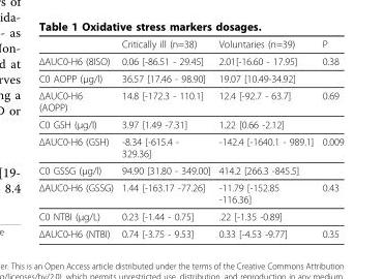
<table><thead><tr><td></td><td>Critically ill (n=38)</td><td>Voluntaries (n=39)</td><td>P</td></tr></thead><tbody><tr><td>ΔAUC0-H6 (8ISO)</td><td>0.06 [-86.51 - 29.45]</td><td>2.01[-16.60 - 17.95]</td><td>0.38</td></tr><tr><td>C0 AOPP (µg/l)</td><td>36.57 [17.46 - 98.90]</td><td>19.07 [10.49-34.92]</td><td></td></tr><tr><td>ΔAUC0-H6 (AOPP)</td><td>14.8 [-172.3 - 110.1]</td><td>12.4 [-92.7 - 63.7]</td><td>0.69</td></tr><tr><td>C0 GSH (µg/l)</td><td>3.97 [1.49 -7.31]</td><td>1.22 [0.66 -2.12]</td><td></td></tr><tr><td>ΔAUC0-H6 (GSH)</td><td>-8.34 [-615.4 - 329.36]</td><td>-142.4 [-1640.1 - 989.1]</td><td>0.009</td></tr><tr><td>C0 GSSG (µg/l)</td><td>94.90 [31.80 - 349.00]</td><td>414.2 [266.3 -845.5]</td><td></td></tr><tr><td>ΔAUC0-H6 (GSSG)</td><td>1.44 [-163.17 -77.26]</td><td>-11.79 [-152.85 -116.36]</td><td>0.43</td></tr><tr><td>C0 NTBI (µg/L)</td><td>0.23 [-1.44 - 0.75]</td><td>.22 [-1.35 -0.89]</td><td></td></tr><tr><td>ΔAUC0-H6 (NTBI)</td><td>0.74 [-3.75 - 9.53]</td><td>0.33 [-4.53 -9.77]</td><td>0.35</td></tr></tbody></table>